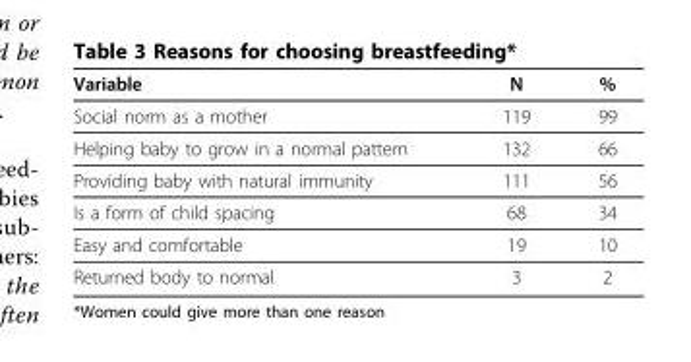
<table><thead><tr><td>Variable</td><td>N</td><td>%</td></tr></thead><tbody><tr><td>Social norm as a mother</td><td>119</td><td>99</td></tr><tr><td>Helping baby to grow in a normal pattern</td><td>132</td><td>66</td></tr><tr><td>Providing baby with natural immunity</td><td>111</td><td>56</td></tr><tr><td>Is a form of child spacing</td><td>68</td><td>34</td></tr><tr><td>Easy and comfortable</td><td>19</td><td>10</td></tr><tr><td>Returned body to normal</td><td>3</td><td>2</td></tr></tbody></table>